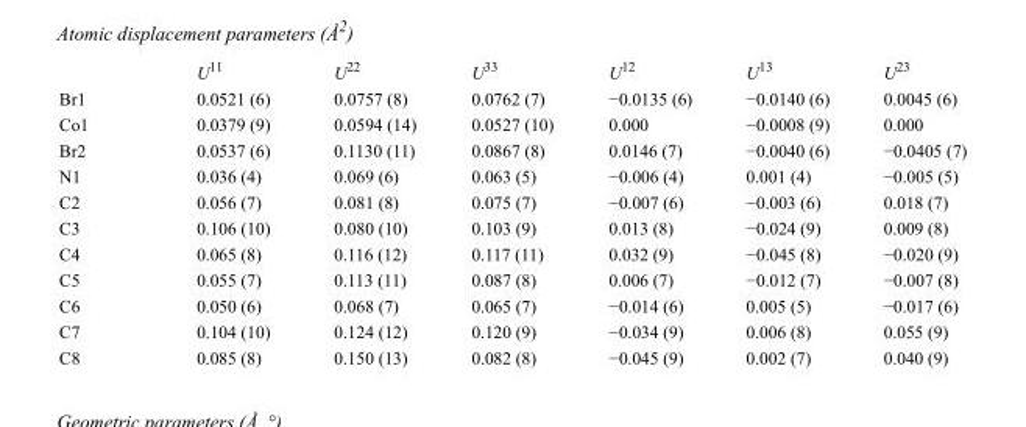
<table><thead><tr><td></td><td>U<sup>11</sup></td><td>U<sup>22</sup></td><td>U<sup>33</sup></td><td>U<sup>12</sup></td><td>U<sup>13</sup></td><td>U<sup>23</sup></td></tr></thead><tbody><tr><td>Br1</td><td>0.0521 (6)</td><td>0.0757 (8)</td><td>0.0762 (7)</td><td>−0.0135 (6)</td><td>−0.0140 (6)</td><td>0.0045 (6)</td></tr><tr><td>Co1</td><td>0.0379 (9)</td><td>0.0594 (14)</td><td>0.0527 (10)</td><td>0.000</td><td>−0.0008 (9)</td><td>0.000</td></tr><tr><td>Br2</td><td>0.0537 (6)</td><td>0.1130 (11)</td><td>0.0867 (8)</td><td>0.0146 (7)</td><td>−0.0040 (6)</td><td>−0.0405 (7)</td></tr><tr><td>N1</td><td>0.036 (4)</td><td>0.069 (6)</td><td>0.063 (5)</td><td>−0.006 (4)</td><td>0.001 (4)</td><td>−0.005 (5)</td></tr><tr><td>C2</td><td>0.056 (7)</td><td>0.081 (8)</td><td>0.075 (7)</td><td>−0.007 (6)</td><td>−0.003 (6)</td><td>0.018 (7)</td></tr><tr><td>C3</td><td>0.106 (10)</td><td>0.080 (10)</td><td>0.103 (9)</td><td>0.013 (8)</td><td>−0.024 (9)</td><td>0.009 (8)</td></tr><tr><td>C4</td><td>0.065 (8)</td><td>0.116 (12)</td><td>0.117 (11)</td><td>0.032 (9)</td><td>−0.045 (8)</td><td>−0.020 (9)</td></tr><tr><td>C5</td><td>0.055 (7)</td><td>0.113 (11)</td><td>0.087 (8)</td><td>0.006 (7)</td><td>−0.012 (7)</td><td>−0.007 (8)</td></tr><tr><td>C6</td><td>0.050 (6)</td><td>0.068 (7)</td><td>0.065 (7)</td><td>−0.014 (6)</td><td>0.005 (5)</td><td>−0.017 (6)</td></tr><tr><td>C7</td><td>0.104 (10)</td><td>0.124 (12)</td><td>0.120 (9)</td><td>−0.034 (9)</td><td>0.006 (8)</td><td>0.055 (9)</td></tr><tr><td>C8</td><td>0.085 (8)</td><td>0.150 (13)</td><td>0.082 (8)</td><td>−0.045 (9)</td><td>0.002 (7)</td><td>0.040 (9)</td></tr></tbody></table>